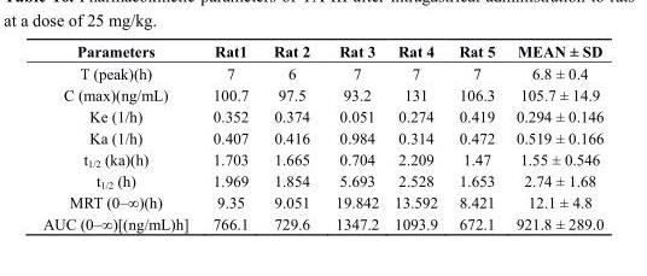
<table><thead><tr><td>Parameters</td><td>Rat1</td><td>Rat 2</td><td>Rat 3</td><td>Rat 4</td><td>Rat 5</td><td>MEAN ± SD</td></tr></thead><tbody><tr><td>T (peak)(h)</td><td>7</td><td>6</td><td>7</td><td>7</td><td>7</td><td>6.8 ± 0.4</td></tr><tr><td>C (max)(ng/mL)</td><td>100.7</td><td>97.5</td><td>93.2</td><td>131</td><td>106.3</td><td>105.7 ± 14.9</td></tr><tr><td>Ke (1/h)</td><td>0.352</td><td>0.374</td><td>0.051</td><td>0.274</td><td>0.419</td><td>0.294 ± 0.146</td></tr><tr><td>Ka (1/h)</td><td>0.407</td><td>0.416</td><td>0.984</td><td>0.314</td><td>0.472</td><td>0.519 ± 0.166</td></tr><tr><td>t<sub>1/2</sub> (ka)(h)</td><td>1.703</td><td>1.665</td><td>0.704</td><td>2.209</td><td>1.47</td><td>1.55 ± 0.546</td></tr><tr><td>t<sub>1/2</sub> (h)</td><td>1.969</td><td>1.854</td><td>5.693</td><td>2.528</td><td>1.653</td><td>2.74 ± 1.68</td></tr><tr><td>MRT (0–∞)(h)</td><td>9.35</td><td>9.051</td><td>19.842</td><td>13.592</td><td>8.421</td><td>12.1 ± 4.8</td></tr><tr><td>AUC (0–∞)[(ng/mL)h]</td><td>766.1</td><td>729.6</td><td>1347.2</td><td>1093.9</td><td>672.1</td><td>921.8 ± 289.0</td></tr></tbody></table>